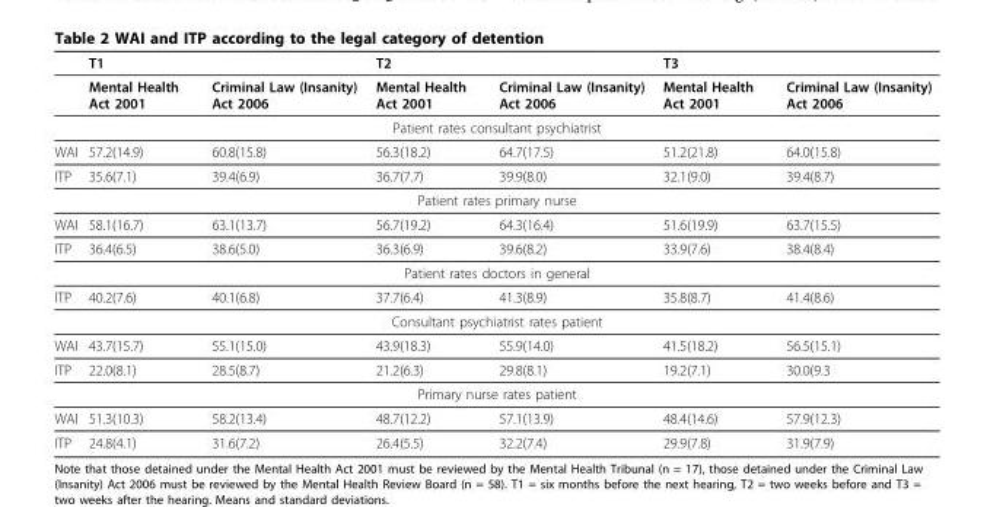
<table><thead><tr><td rowspan="2"></td><td colspan="2">T1</td><td colspan="2">T2</td><td colspan="2">T3</td></tr><tr><td>Mental Health Act 2001</td><td>Criminal Law (Insanity) Act 2006</td><td>Mental Health Act 2001</td><td>Criminal Law (Insanity) Act 2006</td><td>Mental Health Act 2001</td><td>Criminal Law (Insanity) Act 2006</td></tr></thead><tbody><tr><td colspan="7">Patient rates consultant psychiatrist</td></tr><tr><td>WAI</td><td>57.2(14.9)</td><td>60.8(15.8)</td><td>56.3(18.2)</td><td>64.7(17.5)</td><td>51.2(21.8)</td><td>64.0(15.8)</td></tr><tr><td>ITP</td><td>35.6(7.1)</td><td>39.4(6.9)</td><td>36.7(7.7)</td><td>39.9(8.0)</td><td>32.1(9.0)</td><td>39.4(8.7)</td></tr><tr><td colspan="7">Patient rates primary nurse</td></tr><tr><td>WAI</td><td>58.1(16.7)</td><td>63.1(13.7)</td><td>56.7(19.2)</td><td>64.3(16.4)</td><td>51.6(19.9)</td><td>63.7(15.5)</td></tr><tr><td>ITP</td><td>36.4(6.5)</td><td>38.6(5.0)</td><td>36.3(6.9)</td><td>39.6(8.2)</td><td>33.9(7.6)</td><td>38.4(8.4)</td></tr><tr><td colspan="7">Patient rates doctors in general</td></tr><tr><td>ITP</td><td>40.2(7.6)</td><td>40.1(6.8)</td><td>37.7(6.4)</td><td>41.3(8.9)</td><td>35.8(8.7)</td><td>41.4(8.6)</td></tr><tr><td colspan="7">Consultant psychiatrist rates patient</td></tr><tr><td>WAI</td><td>43.7(15.7)</td><td>55.1(15.0)</td><td>43.9(18.3)</td><td>55.9(14.0)</td><td>41.5(18.2)</td><td>56.5(15.1)</td></tr><tr><td>ITP</td><td>22.0(8.1)</td><td>28.5(8.7)</td><td>21.2(6.3)</td><td>29.8(8.1)</td><td>19.2(7.1)</td><td>30.0(9.3</td></tr><tr><td colspan="7">Primary nurse rates patient</td></tr><tr><td>WAI</td><td>51.3(10.3)</td><td>58.2(13.4)</td><td>48.7(12.2)</td><td>57.1(13.9)</td><td>48.4(14.6)</td><td>57.9(12.3)</td></tr><tr><td>ITP</td><td>24.8(4.1)</td><td>31.6(7.2)</td><td>26.4(5.5)</td><td>32.2(7.4)</td><td>29.9(7.8)</td><td>31.9(7.9)</td></tr></tbody></table>